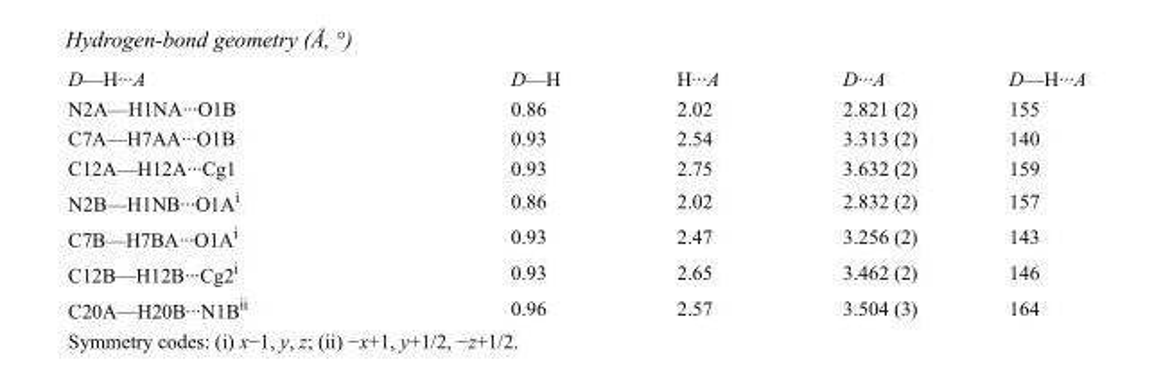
<table><tbody><tr><td>D—H···A</td><td>D—H</td><td>H···A</td><td>D···A</td><td>D—H···A</td></tr><tr><td>N2A—H1NA···O1B</td><td>0.86</td><td>2.02</td><td>2.821 (2)</td><td>155</td></tr><tr><td>C7A—H7AA···O1B</td><td>0.93</td><td>2.54</td><td>3.313 (2)</td><td>140</td></tr><tr><td>C12A—H12A···Cg1</td><td>0.93</td><td>2.75</td><td>3.632 (2)</td><td>159</td></tr><tr><td>N2B—H1NB···O1A<sup>i</sup></td><td>0.86</td><td>2.02</td><td>2.832 (2)</td><td>157</td></tr><tr><td>C7B—H7BA···O1A<sup>i</sup></td><td>0.93</td><td>2.47</td><td>3.256 (2)</td><td>143</td></tr><tr><td>C12B—H12B···Cg2<sup>i</sup></td><td>0.93</td><td>2.65</td><td>3.462 (2)</td><td>146</td></tr><tr><td>C20A—H20B···N1B<sup>ii</sup></td><td>0.96</td><td>2.57</td><td>3.504 (3)</td><td>164</td></tr></tbody></table>